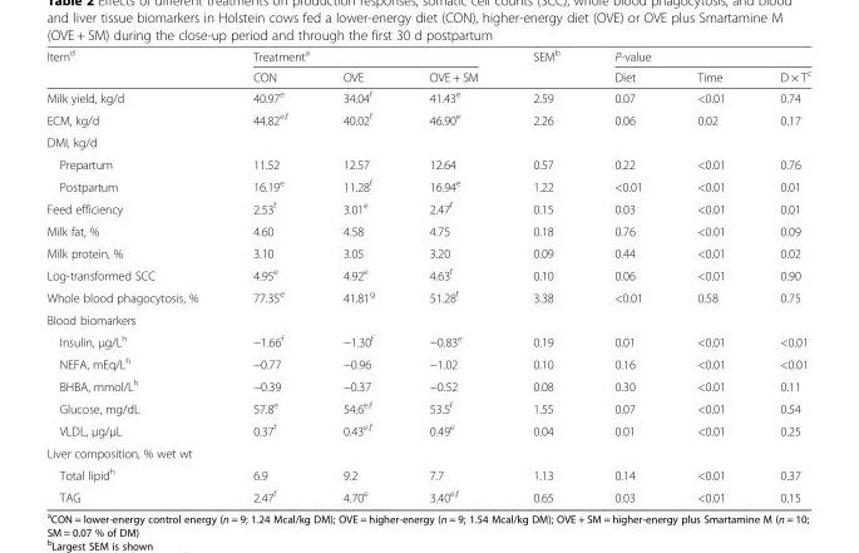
<table><thead><tr><td rowspan="2">Item<sup>d</sup></td><td colspan="3">Treatment<sup>a</sup></td><td rowspan="2">SEM<sup>b</sup></td><td colspan="3">P-value</td></tr><tr><td>CON</td><td>OVE</td><td>OVE + SM</td><td>Diet</td><td>Time</td><td>D × T<sup>c</sup></td></tr></thead><tbody><tr><td>Milk yield, kg/d</td><td>40.97<sup>e</sup></td><td>34.04<sup>f</sup></td><td>41.43<sup>e</sup></td><td>2.59</td><td>0.07</td><td>&lt;0.01</td><td>0.74</td></tr><tr><td>ECM, kg/d</td><td>44.82<sup>e,f</sup></td><td>40.02<sup>f</sup></td><td>46.90<sup>e</sup></td><td>2.26</td><td>0.06</td><td>0.02</td><td>0.17</td></tr><tr><td colspan="8">DMI, kg/d</td></tr><tr><td>Prepartum</td><td>11.52</td><td>12.57</td><td>12.64</td><td>0.57</td><td>0.22</td><td>&lt;0.01</td><td>0.76</td></tr><tr><td>Postpartum</td><td>16.19<sup>e</sup></td><td>11.28<sup>f</sup></td><td>16.94<sup>e</sup></td><td>1.22</td><td>&lt;0.01</td><td>&lt;0.01</td><td>0.01</td></tr><tr><td>Feed efficiency</td><td>2.53<sup>f</sup></td><td>3.01<sup>e</sup></td><td>2.47<sup>f</sup></td><td>0.15</td><td>0.03</td><td>&lt;0.01</td><td>0.01</td></tr><tr><td>Milk fat, %</td><td>4.60</td><td>4.58</td><td>4.75</td><td>0.18</td><td>0.76</td><td>&lt;0.01</td><td>0.09</td></tr><tr><td>Milk protein, %</td><td>3.10</td><td>3.05</td><td>3.20</td><td>0.09</td><td>0.44</td><td>&lt;0.01</td><td>0.02</td></tr><tr><td>Log-transformed SCC</td><td>4.95<sup>e</sup></td><td>4.92<sup>e</sup></td><td>4.63<sup>f</sup></td><td>0.10</td><td>0.06</td><td>&lt;0.01</td><td>0.90</td></tr><tr><td>Whole blood phagocytosis, %</td><td>77.35<sup>e</sup></td><td>41.81<sup>g</sup></td><td>51.28<sup>f</sup></td><td>3.38</td><td>&lt;0.01</td><td>0.58</td><td>0.75</td></tr><tr><td colspan="8">Blood biomarkers</td></tr><tr><td>Insulin, μg/L<sup>h</sup></td><td>−1.66<sup>f</sup></td><td>−1.30<sup>f</sup></td><td>−0.83<sup>e</sup></td><td>0.19</td><td>0.01</td><td>&lt;0.01</td><td>&lt;0.01</td></tr><tr><td>NEFA, mEq/L<sup>h</sup></td><td>−0.77</td><td>−0.96</td><td>−1.02</td><td>0.10</td><td>0.16</td><td>&lt;0.01</td><td>&lt;0.01</td></tr><tr><td>BHBA, mmol/L<sup>h</sup></td><td>−0.39</td><td>−0.37</td><td>−0.52</td><td>0.08</td><td>0.30</td><td>&lt;0.01</td><td>0.11</td></tr><tr><td>Glucose, mg/dL</td><td>57.8<sup>e</sup></td><td>54.6<sup>e,f</sup></td><td>53.5<sup>f</sup></td><td>1.55</td><td>0.07</td><td>&lt;0.01</td><td>0.54</td></tr><tr><td>VLDL, μg/μL</td><td>0.37<sup>f</sup></td><td>0.43<sup>e,f</sup></td><td>0.49<sup>e</sup></td><td>0.04</td><td>0.01</td><td>&lt;0.01</td><td>0.25</td></tr><tr><td colspan="8">Liver composition, % wet wt</td></tr><tr><td>Total lipid<sup>h</sup></td><td>6.9</td><td>9.2</td><td>7.7</td><td>1.13</td><td>0.14</td><td>&lt;0.01</td><td>0.37</td></tr><tr><td>TAG</td><td>2.47<sup>f</sup></td><td>4.70<sup>e</sup></td><td>3.40<sup>e,f</sup></td><td>0.65</td><td>0.03</td><td>&lt;0.01</td><td>0.15</td></tr></tbody></table>